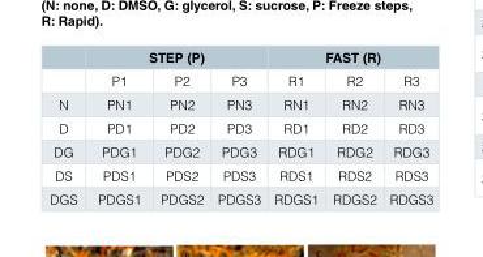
<table><thead><tr><td rowspan="2"></td><td colspan="3">STEP (P)</td><td colspan="3">FAST (R)</td></tr><tr><td>P1</td><td>P2</td><td>P3</td><td>R1</td><td>R2</td><td>R3</td></tr></thead><tbody><tr><td>N</td><td>PN1</td><td>PN2</td><td>PN3</td><td>RN1</td><td>RN2</td><td>RN3</td></tr><tr><td>D</td><td>PD1</td><td>PD2</td><td>PD3</td><td>RD1</td><td>RD2</td><td>RD3</td></tr><tr><td>DG</td><td>PDG1</td><td>PDG2</td><td>PDG3</td><td>RDG1</td><td>RDG2</td><td>RDG3</td></tr><tr><td>DS</td><td>PDS1</td><td>PDS2</td><td>PDS3</td><td>RDS1</td><td>RDS2</td><td>RDS3</td></tr><tr><td>DGS</td><td>PDGS1</td><td>PDGS2</td><td>PDGS3</td><td>RDGS1</td><td>RDGS2</td><td>RDGS3</td></tr></tbody></table>